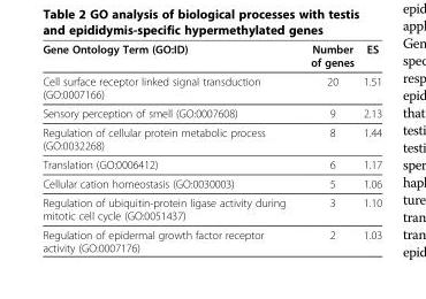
<table><thead><tr><td>Gene Ontology Term (GO:ID)</td><td>Number of genes</td><td>ES</td></tr></thead><tbody><tr><td>Cell surface receptor linked signal transduction (GO:0007166)</td><td>20</td><td>1.51</td></tr><tr><td>Sensory perception of smell (GO:0007608)</td><td>9</td><td>2.13</td></tr><tr><td>Regulation of cellular protein metabolic process (GO:0032268)</td><td>8</td><td>1.44</td></tr><tr><td>Translation (GO:0006412)</td><td>6</td><td>1.17</td></tr><tr><td>Cellular cation homeostasis (GO:0030003)</td><td>5</td><td>1.06</td></tr><tr><td>Regulation of ubiquitin-protein ligase activity during mitotic cell cycle (GO:0051437)</td><td>3</td><td>1.10</td></tr><tr><td>Regulation of epidermal growth factor receptor activity (GO:0007176)</td><td>2</td><td>1.03</td></tr></tbody></table>